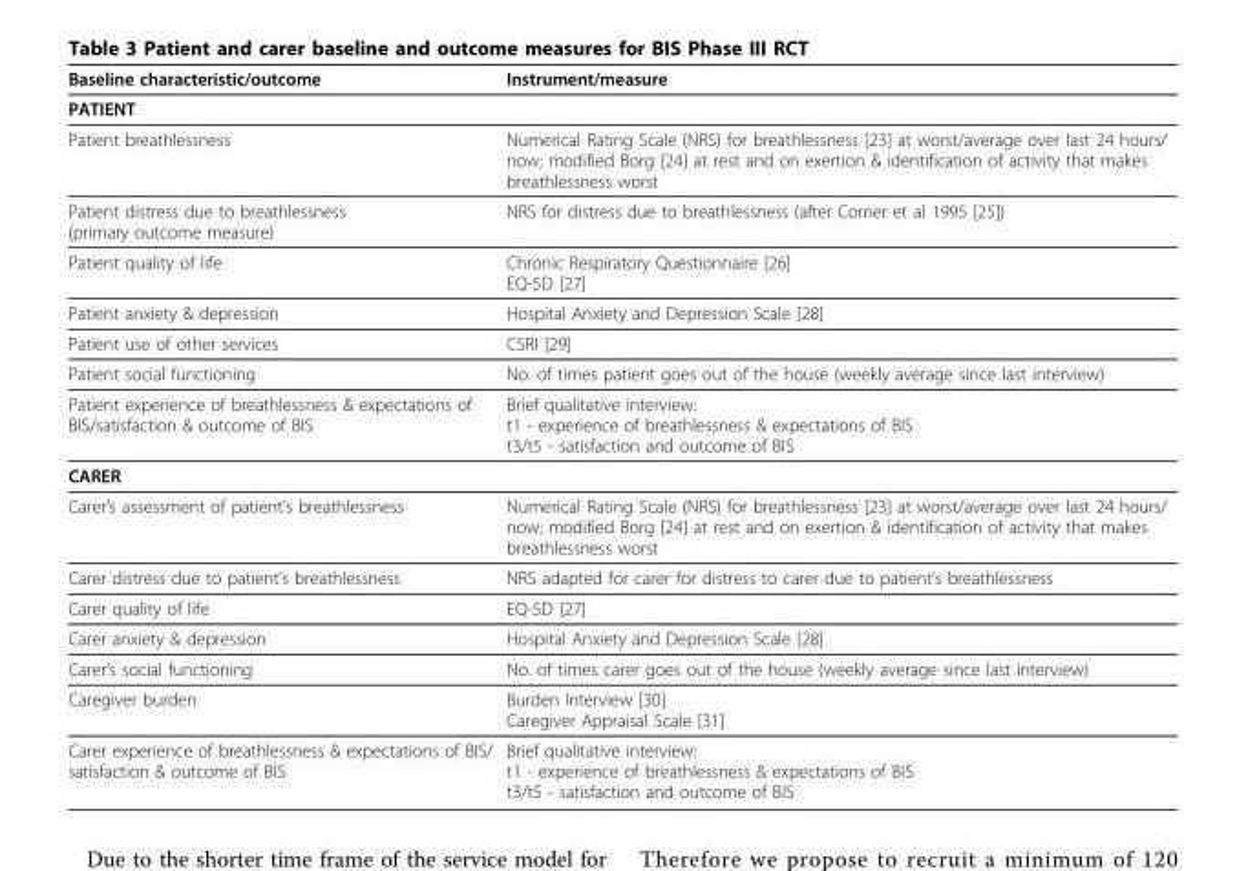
<table><thead><tr><td>Baseline characteristic/outcome</td><td>Instrument/measure</td></tr></thead><tbody><tr><td colspan="2">PATIENT</td></tr><tr><td>Patient breathlessness</td><td>Numerical Rating Scale (NRS) for breathlessness [23] at worst/average over last 24 hours/ now; modified Borg [24] at rest and on exertion &amp; identification of activity that makes breathlessness worst</td></tr><tr><td>Patient distress due to breathlessness (primary outcome measure)</td><td>NRS for distress due to breathlessness (after Corner et al 1995 [25])</td></tr><tr><td>Patient quality of life</td><td>Chronic Respiratory Questionnaire [26] EQ-5D [27]</td></tr><tr><td>Patient anxiety &amp; depression</td><td>Hospital Anxiety and Depression Scale [28]</td></tr><tr><td>Patient use of other services</td><td>CSRI [29]</td></tr><tr><td>Patient social functioning</td><td>No. of times patient goes out of the house (weekly average since last interview)</td></tr><tr><td>Patient experience of breathlessness &amp; expectations of BIS/satisfaction &amp; outcome of BIS</td><td>Brief qualitative interview: t1 - experience of breathlessness &amp; expectations of BIS t3/t5 - satisfaction and outcome of BIS</td></tr><tr><td colspan="2">CARER</td></tr><tr><td>Carer’s assessment of patient’s breathlessness</td><td>Numerical Rating Scale (NRS) for breathlessness [23] at worst/average over last 24 hours/ now; modified Borg [24] at rest and on exertion &amp; identification of activity that makes breathlessness worst</td></tr><tr><td>Carer distress due to patient’s breathlessness</td><td>NRS adapted for carer for distress to carer due to patient’s breathlessness</td></tr><tr><td>Carer quality of life</td><td>EQ-5D [27]</td></tr><tr><td>Carer anxiety &amp; depression</td><td>Hospital Anxiety and Depression Scale [28]</td></tr><tr><td>Carer’s social functioning</td><td>No. of times carer goes out of the house (weekly average since last interview)</td></tr><tr><td>Caregiver burden</td><td>Burden Interview [30] Caregiver Appraisal Scale [31]</td></tr><tr><td>Carer experience of breathlessness &amp; expectations of BIS/ satisfaction &amp; outcome of BIS</td><td>Brief qualitative interview: t1 - experience of breathlessness &amp; expectations of BIS t3/t5 - satisfaction and outcome of BIS</td></tr></tbody></table>